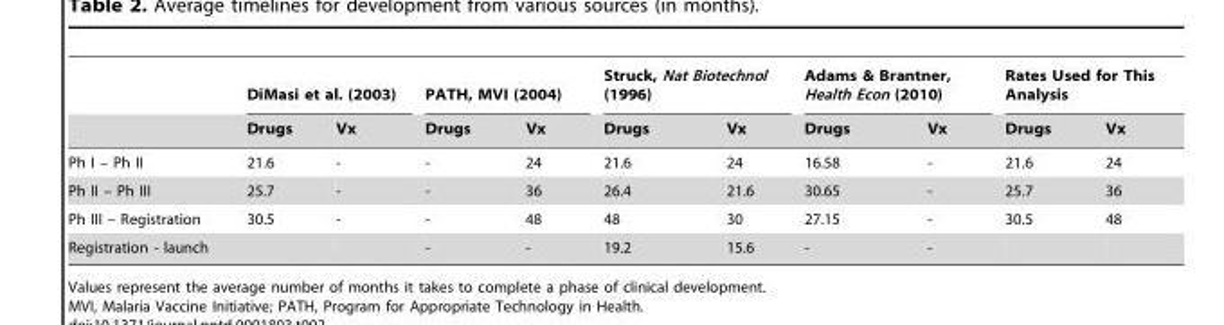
<table><thead><tr><td rowspan="2"></td><td colspan="2">DiMasi et al. (2003)</td><td colspan="2">PATH, MVI (2004)</td><td colspan="2">Struck, Nat Biotechnol (1996)</td><td colspan="2">Adams &amp; Brantner, Health Econ (2010)</td><td colspan="2">Rates Used for This Analysis</td></tr><tr><td>Drugs</td><td>Vx</td><td>Drugs</td><td>Vx</td><td>Drugs</td><td>Vx</td><td>Drugs</td><td>Vx</td><td>Drugs</td><td>Vx</td></tr></thead><tbody><tr><td>Ph I – Ph II</td><td>21.6</td><td>-</td><td>-</td><td>24</td><td>21.6</td><td>24</td><td>16.58</td><td>-</td><td>21.6</td><td>24</td></tr><tr><td>Ph II – Ph III</td><td>25.7</td><td>-</td><td>-</td><td>36</td><td>26.4</td><td>21.6</td><td>30.65</td><td>-</td><td>25.7</td><td>36</td></tr><tr><td>Ph III – Registration</td><td>30.5</td><td>-</td><td>-</td><td>48</td><td>48</td><td>30</td><td>27.15</td><td>-</td><td>30.5</td><td>48</td></tr><tr><td>Registration - launch</td><td></td><td></td><td>-</td><td>-</td><td>19.2</td><td>15.6</td><td>-</td><td>-</td><td></td><td></td></tr></tbody></table>